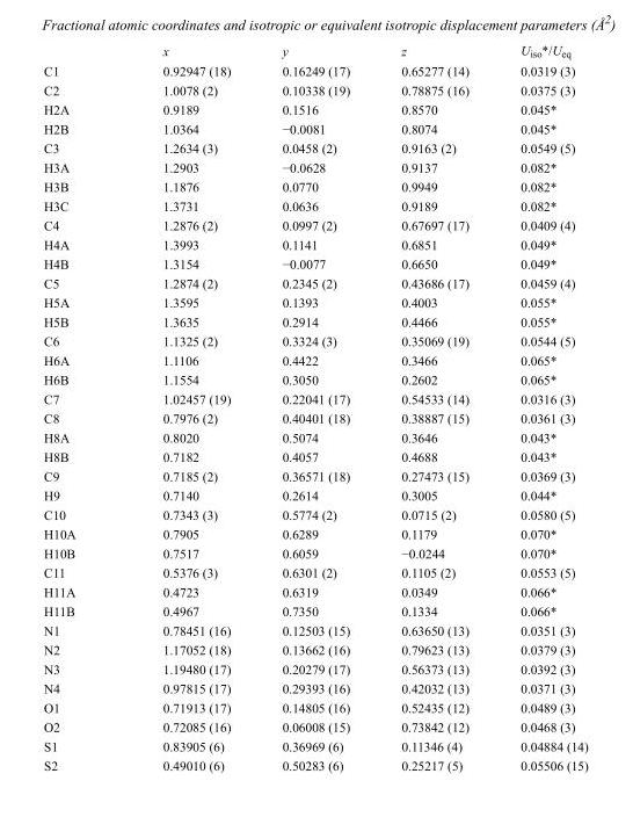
<table><thead><tr><td></td><td>x</td><td>y</td><td>z</td><td>U<sub>iso</sub>*/U<sub>eq</sub></td></tr></thead><tbody><tr><td>C1</td><td>0.92947 (18)</td><td>0.16249 (17)</td><td>0.65277 (14)</td><td>0.0319 (3)</td></tr><tr><td>C2</td><td>1.0078 (2)</td><td>0.10338 (19)</td><td>0.78875 (16)</td><td>0.0375 (3)</td></tr><tr><td>H2A</td><td>0.9189</td><td>0.1516</td><td>0.8570</td><td>0.045*</td></tr><tr><td>H2B</td><td>1.0364</td><td>−0.0081</td><td>0.8074</td><td>0.045*</td></tr><tr><td>C3</td><td>1.2634 (3)</td><td>0.0458 (2)</td><td>0.9163 (2)</td><td>0.0549 (5)</td></tr><tr><td>H3A</td><td>1.2903</td><td>−0.0628</td><td>0.9137</td><td>0.082*</td></tr><tr><td>H3B</td><td>1.1876</td><td>0.0770</td><td>0.9949</td><td>0.082*</td></tr><tr><td>H3C</td><td>1.3731</td><td>0.0636</td><td>0.9189</td><td>0.082*</td></tr><tr><td>C4</td><td>1.2876 (2)</td><td>0.0997 (2)</td><td>0.67697 (17)</td><td>0.0409 (4)</td></tr><tr><td>H4A</td><td>1.3993</td><td>0.1141</td><td>0.6851</td><td>0.049*</td></tr><tr><td>H4B</td><td>1.3154</td><td>−0.0077</td><td>0.6650</td><td>0.049*</td></tr><tr><td>C5</td><td>1.2874 (2)</td><td>0.2345 (2)</td><td>0.43686 (17)</td><td>0.0459 (4)</td></tr><tr><td>H5A</td><td>1.3595</td><td>0.1393</td><td>0.4003</td><td>0.055*</td></tr><tr><td>H5B</td><td>1.3635</td><td>0.2914</td><td>0.4466</td><td>0.055*</td></tr><tr><td>C6</td><td>1.1325 (2)</td><td>0.3324 (3)</td><td>0.35069 (19)</td><td>0.0544 (5)</td></tr><tr><td>H6A</td><td>1.1106</td><td>0.4422</td><td>0.3466</td><td>0.065*</td></tr><tr><td>H6B</td><td>1.1554</td><td>0.3050</td><td>0.2602</td><td>0.065*</td></tr><tr><td>C7</td><td>1.02457 (19)</td><td>0.22041 (17)</td><td>0.54533 (14)</td><td>0.0316 (3)</td></tr><tr><td>C8</td><td>0.7976 (2)</td><td>0.40401 (18)</td><td>0.38887 (15)</td><td>0.0361 (3)</td></tr><tr><td>H8A</td><td>0.8020</td><td>0.5074</td><td>0.3646</td><td>0.043*</td></tr><tr><td>H8B</td><td>0.7182</td><td>0.4057</td><td>0.4688</td><td>0.043*</td></tr><tr><td>C9</td><td>0.7185 (2)</td><td>0.36571 (18)</td><td>0.27473 (15)</td><td>0.0369 (3)</td></tr><tr><td>H9</td><td>0.7140</td><td>0.2614</td><td>0.3005</td><td>0.044*</td></tr><tr><td>C10</td><td>0.7343 (3)</td><td>0.5774 (2)</td><td>0.0715 (2)</td><td>0.0580 (5)</td></tr><tr><td>H10A</td><td>0.7905</td><td>0.6289</td><td>0.1179</td><td>0.070*</td></tr><tr><td>H10B</td><td>0.7517</td><td>0.6059</td><td>−0.0244</td><td>0.070*</td></tr><tr><td>C11</td><td>0.5376 (3)</td><td>0.6301 (2)</td><td>0.1105 (2)</td><td>0.0553 (5)</td></tr><tr><td>H11A</td><td>0.4723</td><td>0.6319</td><td>0.0349</td><td>0.066*</td></tr><tr><td>H11B</td><td>0.4967</td><td>0.7350</td><td>0.1334</td><td>0.066*</td></tr><tr><td>N1</td><td>0.78451 (16)</td><td>0.12503 (15)</td><td>0.63650 (13)</td><td>0.0351 (3)</td></tr><tr><td>N2</td><td>1.17052 (18)</td><td>0.13662 (16)</td><td>0.79623 (13)</td><td>0.0379 (3)</td></tr><tr><td>N3</td><td>1.19480 (17)</td><td>0.20279 (17)</td><td>0.56373 (13)</td><td>0.0392 (3)</td></tr><tr><td>N4</td><td>0.97815 (17)</td><td>0.29393 (16)</td><td>0.42032 (13)</td><td>0.0371 (3)</td></tr><tr><td>O1</td><td>0.71913 (17)</td><td>0.14805 (16)</td><td>0.52435 (12)</td><td>0.0489 (3)</td></tr><tr><td>O2</td><td>0.72085 (16)</td><td>0.06008 (15)</td><td>0.73842 (12)</td><td>0.0468 (3)</td></tr><tr><td>S1</td><td>0.83905 (6)</td><td>0.36969 (6)</td><td>0.11346 (4)</td><td>0.04884 (14)</td></tr><tr><td>S2</td><td>0.49010 (6)</td><td>0.50283 (6)</td><td>0.25217 (5)</td><td>0.05506 (15)</td></tr></tbody></table>